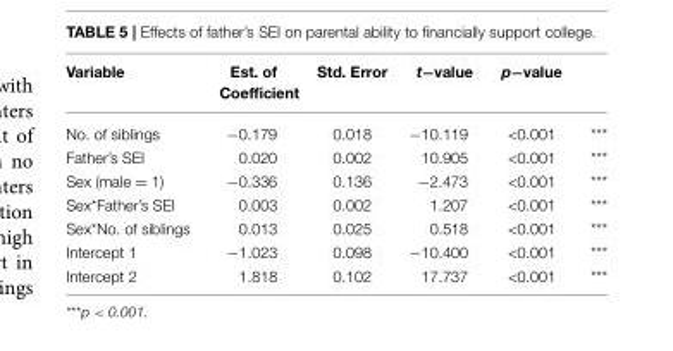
<table><thead><tr><td>Variable</td><td>Est. of Coefficient</td><td>Std. Error</td><td>t−value</td><td>p−value</td><td></td></tr></thead><tbody><tr><td>No. of siblings</td><td>−0.179</td><td>0.018</td><td>−10.119</td><td>&lt;0.001</td><td>***</td></tr><tr><td>Father’s SEI</td><td>0.020</td><td>0.002</td><td>10.905</td><td>&lt;0.001</td><td>***</td></tr><tr><td>Sex (male = 1)</td><td>−0.336</td><td>0.136</td><td>−2.473</td><td>&lt;0.001</td><td>***</td></tr><tr><td>Sex*Father’s SEI</td><td>0.003</td><td>0.002</td><td>1.207</td><td>&lt;0.001</td><td>***</td></tr><tr><td>Sex*No. of siblings</td><td>0.013</td><td>0.025</td><td>0.518</td><td>&lt;0.001</td><td>***</td></tr><tr><td>Intercept 1</td><td>−1.023</td><td>0.098</td><td>−10.400</td><td>&lt;0.001</td><td>***</td></tr><tr><td>Intercept 2</td><td>1.818</td><td>0.102</td><td>17.737</td><td>&lt;0.001</td><td>***</td></tr></tbody></table>